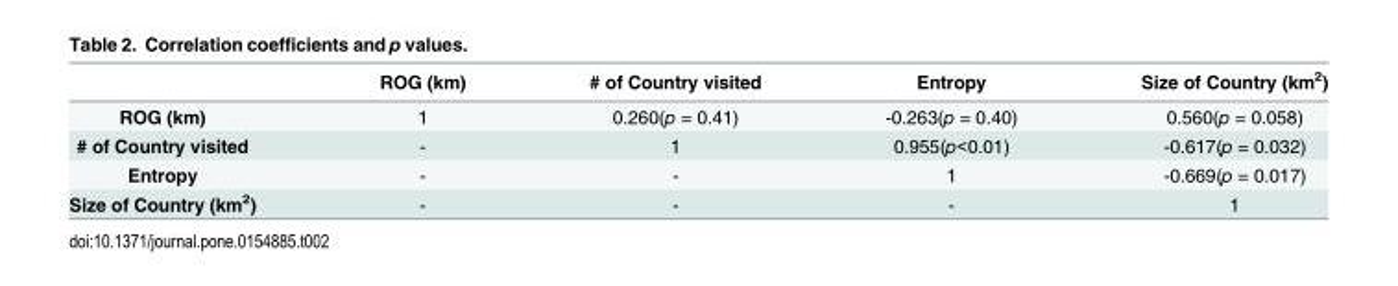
<table><thead><tr><td></td><td>ROG (km)</td><td># of Country visited</td><td>Entropy</td><td>Size of Country (km<sup>2</sup>)</td></tr></thead><tbody><tr><td>ROG (km)</td><td>1</td><td>0.260(p = 0.41)</td><td>-0.263(p = 0.40)</td><td>0.560(p = 0.058)</td></tr><tr><td># of Country visited</td><td>-</td><td>1</td><td>0.955(p&lt;0.01)</td><td>-0.617(p = 0.032)</td></tr><tr><td>Entropy</td><td>-</td><td>-</td><td>1</td><td>-0.669(p = 0.017)</td></tr><tr><td>Size of Country (km<sup>2</sup>)</td><td>-</td><td>-</td><td>-</td><td>1</td></tr></tbody></table>